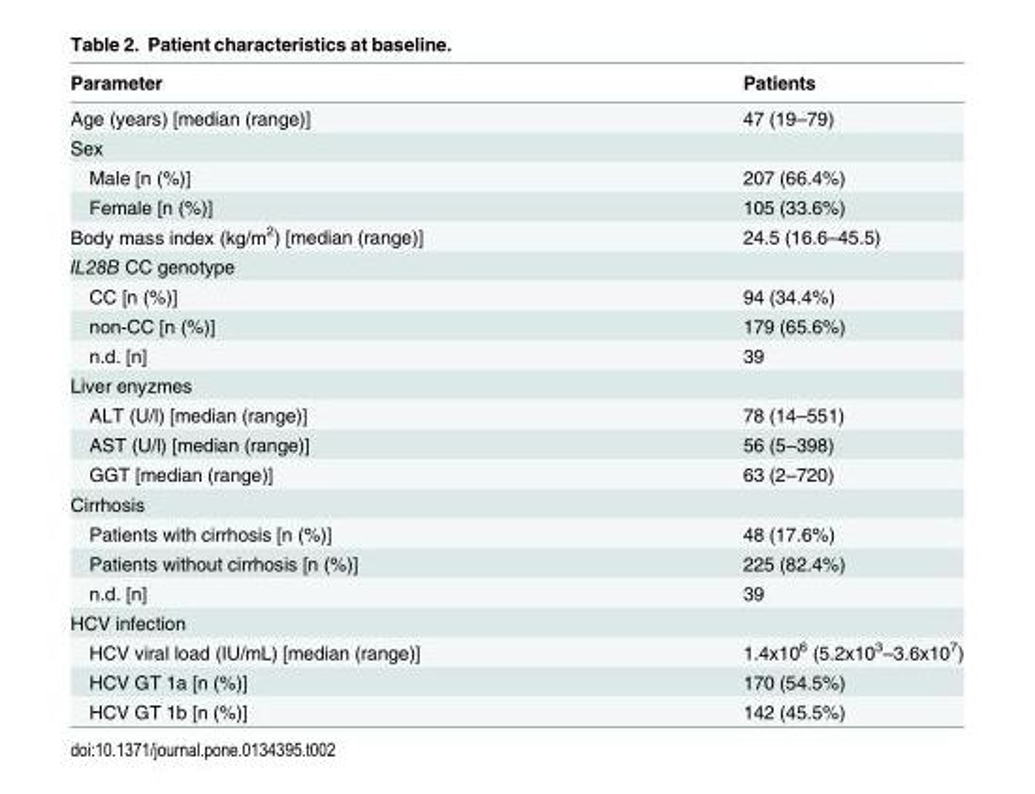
<table><thead><tr><td>Parameter</td><td>Patients</td></tr></thead><tbody><tr><td>Age (years) [median (range)]</td><td>47 (19–79)</td></tr><tr><td colspan="2">Sex</td></tr><tr><td>Male [n (%)]</td><td>207 (66.4%)</td></tr><tr><td>Female [n (%)]</td><td>105 (33.6%)</td></tr><tr><td>Body mass index (kg/m<sup>2</sup>) [median (range)]</td><td>24.5 (16.6–45.5)</td></tr><tr><td colspan="2">IL28B CC genotype</td></tr><tr><td>CC [n (%)]</td><td>94 (34.4%)</td></tr><tr><td>non-CC [n (%)]</td><td>179 (65.6%)</td></tr><tr><td>n.d. [n]</td><td>39</td></tr><tr><td colspan="2">Liver enyzmes</td></tr><tr><td>ALT (U/l) [median (range)]</td><td>78 (14–551)</td></tr><tr><td>AST (U/l) [median (range)]</td><td>56 (5–398)</td></tr><tr><td>GGT [median (range)]</td><td>63 (2–720)</td></tr><tr><td colspan="2">Cirrhosis</td></tr><tr><td>Patients with cirrhosis [n (%)]</td><td>48 (17.6%)</td></tr><tr><td>Patients without cirrhosis [n (%)]</td><td>225 (82.4%)</td></tr><tr><td>n.d. [n]</td><td>39</td></tr><tr><td colspan="2">HCV infection</td></tr><tr><td>HCV viral load (IU/mL) [median (range)]</td><td>1.4x10<sup>6</sup> (5.2x10<sup>3</sup>–3.6x10<sup>7</sup>)</td></tr><tr><td>HCV GT 1a [n (%)]</td><td>170 (54.5%)</td></tr><tr><td>HCV GT 1b [n (%)]</td><td>142 (45.5%)</td></tr></tbody></table>